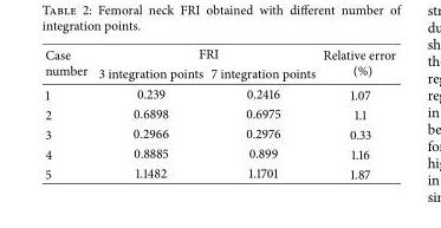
<table><thead><tr><td rowspan="2">Case number</td><td colspan="2">FRI</td><td rowspan="2">Relative error (%)</td></tr><tr><td>3 integration points</td><td>7 integration points</td></tr></thead><tbody><tr><td>1</td><td>0.239</td><td>0.2416</td><td>1.07</td></tr><tr><td>2</td><td>0.6898</td><td>0.6975</td><td>1.1</td></tr><tr><td>3</td><td>0.2966</td><td>0.2976</td><td>0.33</td></tr><tr><td>4</td><td>0.8885</td><td>0.899</td><td>1.16</td></tr><tr><td>5</td><td>1.1482</td><td>1.1701</td><td>1.87</td></tr></tbody></table>